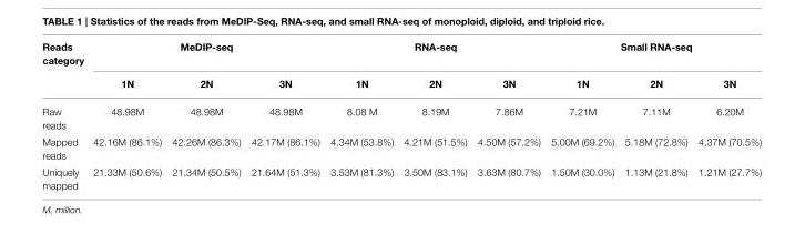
<table><thead><tr><td rowspan="2">Reads category</td><td colspan="3">MeDIP-seq</td><td colspan="3">RNA-seq</td><td colspan="3">Small RNA-seq</td></tr><tr><td>1N</td><td>2N</td><td>3N</td><td>1N</td><td>2N</td><td>3N</td><td>1N</td><td>2N</td><td>3N</td></tr></thead><tbody><tr><td>Raw reads</td><td>48.98M</td><td>48.98M</td><td>48.98M</td><td>8.08 M</td><td>8.19M</td><td>7.86M</td><td>7.21M</td><td>7.11M</td><td>6.20M</td></tr><tr><td>Mapped reads</td><td>42.16M (86.1%)</td><td>42.26M (86.3%)</td><td>42.17M (86.1%)</td><td>4.34M (53.8%)</td><td>4.21M (51.5%)</td><td>4.50M (57.2%)</td><td>5.00M (69.2%)</td><td>5.18M (72.8%)</td><td>4.37M (70.5%)</td></tr><tr><td>Uniquely mapped</td><td>21.33M (50.6%)</td><td>21.34M (50.5%)</td><td>21.64M (51.3%)</td><td>3.53M (81.3%)</td><td>3.50M (83.1%)</td><td>3.63M (80.7%)</td><td>1.50M (30.0%)</td><td>1.13M (21.8%)</td><td>1.21M (27.7%)</td></tr></tbody></table>